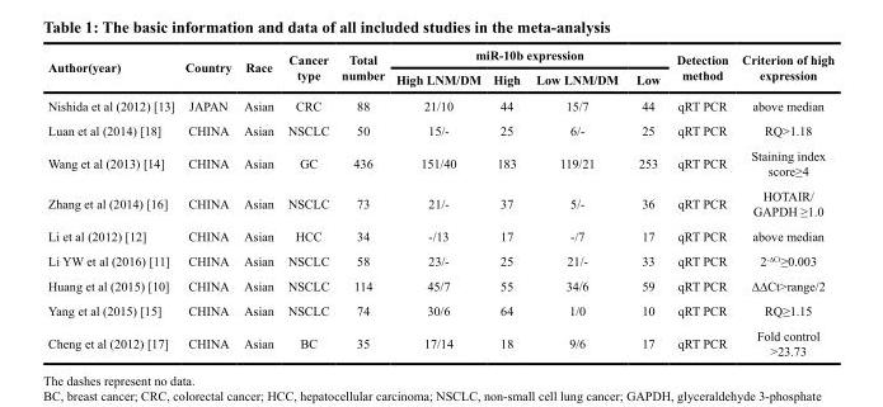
<table><thead><tr><td rowspan="2">Author(year)</td><td rowspan="2">Country</td><td rowspan="2">Race</td><td rowspan="2">Cancer type</td><td rowspan="2">Total number</td><td colspan="4">miR-10b expression</td><td rowspan="2">Detection method</td><td rowspan="2">Criterion of high expression</td></tr><tr><td>High LNM/DM</td><td>High</td><td>Low LNM/DM</td><td>Low</td></tr></thead><tbody><tr><td>Nishida et al (2012) [13]</td><td>JAPAN</td><td>Asian</td><td>CRC</td><td>88</td><td>21/10</td><td>44</td><td>15/7</td><td>44</td><td>qRT PCR</td><td>above median</td></tr><tr><td>Luan et al (2014) [18]</td><td>CHINA</td><td>Asian</td><td>NSCLC</td><td>50</td><td>15/-</td><td>25</td><td>6/-</td><td>25</td><td>qRT PCR</td><td>RQ&gt;1.18</td></tr><tr><td>Wang et al (2013) [14]</td><td>CHINA</td><td>Asian</td><td>GC</td><td>436</td><td>151/40</td><td>183</td><td>119/21</td><td>253</td><td>qRT PCR</td><td>Staining index score≥4</td></tr><tr><td>Zhang et al (2014) [16]</td><td>CHINA</td><td>Asian</td><td>NSCLC</td><td>73</td><td>21/-</td><td>37</td><td>5/-</td><td>36</td><td>qRT PCR</td><td>HOTAIR/ GAPDH ≥1.0</td></tr><tr><td>Li et al (2012) [12]</td><td>CHINA</td><td>Asian</td><td>HCC</td><td>34</td><td>-/13</td><td>17</td><td>-/7</td><td>17</td><td>qRT PCR</td><td>above median</td></tr><tr><td>Li YW et al (2016) [11]</td><td>CHINA</td><td>Asian</td><td>NSCLC</td><td>58</td><td>23/-</td><td>25</td><td>21/-</td><td>33</td><td>qRT PCR</td><td>2<sup>-∆Ct</sup>≥0.003</td></tr><tr><td>Huang et al (2015) [10]</td><td>CHINA</td><td>Asian</td><td>NSCLC</td><td>114</td><td>45/7</td><td>55</td><td>34/6</td><td>59</td><td>qRT PCR</td><td>∆∆Ct&gt;range/2</td></tr><tr><td>Yang et al (2015) [15]</td><td>CHINA</td><td>Asian</td><td>NSCLC</td><td>74</td><td>30/6</td><td>64</td><td>1/0</td><td>10</td><td>qRT PCR</td><td>RQ≥1.15</td></tr><tr><td>Cheng et al (2012) [17]</td><td>CHINA</td><td>Asian</td><td>BC</td><td>35</td><td>17/14</td><td>18</td><td>9/6</td><td>17</td><td>qRT PCR</td><td>Fold control &gt;23.73</td></tr></tbody></table>